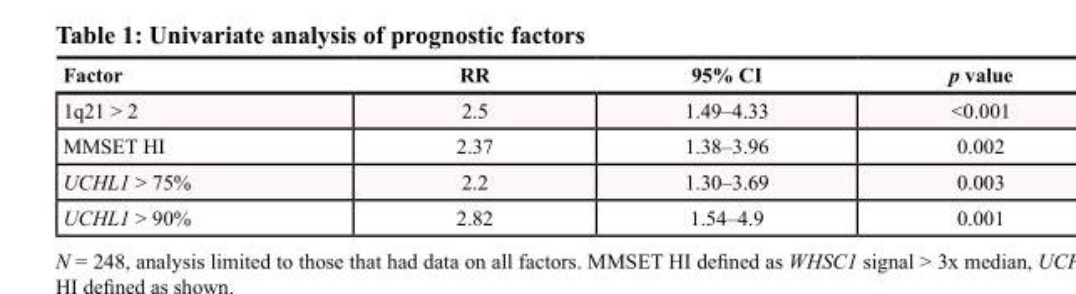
<table><thead><tr><td>Factor</td><td>RR</td><td>95% CI</td><td>p value</td></tr></thead><tbody><tr><td>1q21 &gt; 2</td><td>2.5</td><td>1.49–4.33</td><td>&lt;0.001</td></tr><tr><td>MMSET HI</td><td>2.37</td><td>1.38–3.96</td><td>0.002</td></tr><tr><td>UCHL1 &gt; 75%</td><td>2.2</td><td>1.30–3.69</td><td>0.003</td></tr><tr><td>UCHL1 &gt; 90%</td><td>2.82</td><td>1.54–4.9</td><td>0.001</td></tr></tbody></table>